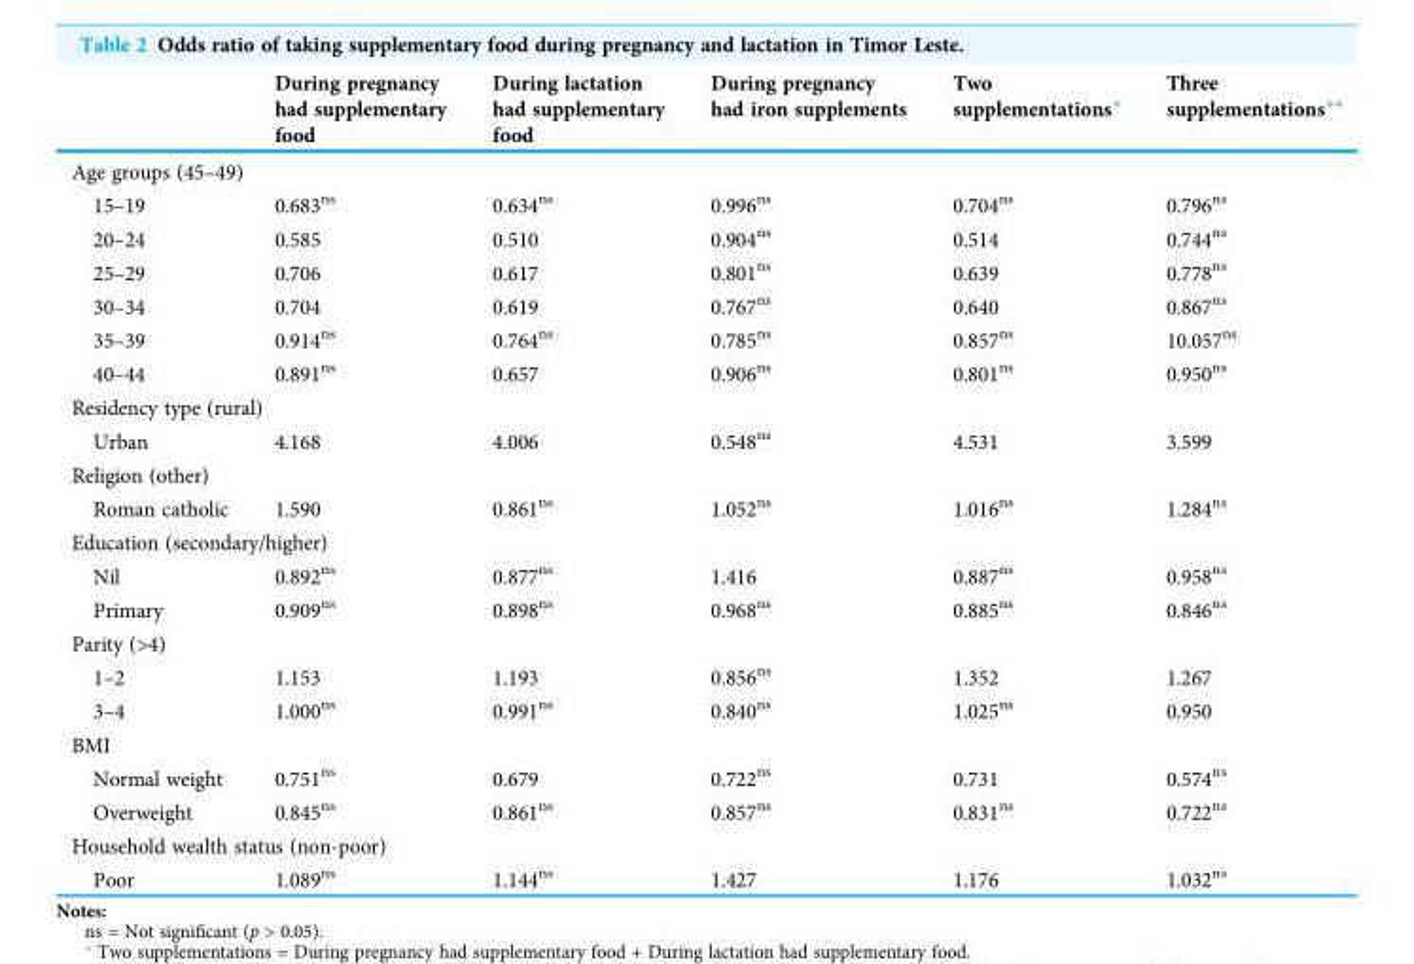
<table><thead><tr><td></td><td>During pregnancy had supplementary food</td><td>During lactation had supplementary food</td><td>During pregnancy had iron supplements</td><td>Two supplementations*</td><td>Three supplementations**</td></tr></thead><tbody><tr><td colspan="6">Age groups (45–49)</td></tr><tr><td>15–19</td><td>0.683<sup>ns</sup></td><td>0.634<sup>ns</sup></td><td>0.996<sup>ns</sup></td><td>0.704<sup>ns</sup></td><td>0.796<sup>ns</sup></td></tr><tr><td>20–24</td><td>0.585</td><td>0.510</td><td>0.904<sup>ns</sup></td><td>0.514</td><td>0.744<sup>ns</sup></td></tr><tr><td>25–29</td><td>0.706</td><td>0.617</td><td>0.801<sup>ns</sup></td><td>0.639</td><td>0.778<sup>ns</sup></td></tr><tr><td>30–34</td><td>0.704</td><td>0.619</td><td>0.767<sup>ns</sup></td><td>0.640</td><td>0.867<sup>ns</sup></td></tr><tr><td>35–39</td><td>0.914<sup>ns</sup></td><td>0.764<sup>ns</sup></td><td>0.785<sup>ns</sup></td><td>0.857<sup>ns</sup></td><td>10.057<sup>ns</sup></td></tr><tr><td>40–44</td><td>0.891<sup>ns</sup></td><td>0.657</td><td>0.906<sup>ns</sup></td><td>0.801<sup>ns</sup></td><td>0.950<sup>ns</sup></td></tr><tr><td colspan="6">Residency type (rural)</td></tr><tr><td>Urban</td><td>4.168</td><td>4.006</td><td>0.548<sup>ns</sup></td><td>4.531</td><td>3.599</td></tr><tr><td colspan="6">Religion (other)</td></tr><tr><td>Roman catholic</td><td>1.590</td><td>0.861<sup>ns</sup></td><td>1.052<sup>ns</sup></td><td>1.016<sup>ns</sup></td><td>1.284<sup>ns</sup></td></tr><tr><td colspan="6">Education (secondary/higher)</td></tr><tr><td>Nil</td><td>0.892<sup>ns</sup></td><td>0.877<sup>ns</sup></td><td>1.416</td><td>0.887<sup>ns</sup></td><td>0.958<sup>ns</sup></td></tr><tr><td>Primary</td><td>0.909<sup>ns</sup></td><td>0.898<sup>ns</sup></td><td>0.968<sup>ns</sup></td><td>0.885<sup>ns</sup></td><td>0.846<sup>ns</sup></td></tr><tr><td colspan="6">Parity (&gt;4)</td></tr><tr><td>1–2</td><td>1.153</td><td>1.193</td><td>0.856<sup>ns</sup></td><td>1.352</td><td>1.267</td></tr><tr><td>3–4</td><td>1.000<sup>ns</sup></td><td>0.991<sup>ns</sup></td><td>0.840<sup>ns</sup></td><td>1.025<sup>ns</sup></td><td>0.950</td></tr><tr><td colspan="6">BMI</td></tr><tr><td>Normal weight</td><td>0.751<sup>ns</sup></td><td>0.679</td><td>0.722<sup>ns</sup></td><td>0.731</td><td>0.574<sup>ns</sup></td></tr><tr><td>Overweight</td><td>0.845<sup>ns</sup></td><td>0.861<sup>ns</sup></td><td>0.857<sup>ns</sup></td><td>0.831<sup>ns</sup></td><td>0.722<sup>ns</sup></td></tr><tr><td colspan="6">Household wealth status (non-poor)</td></tr><tr><td>Poor</td><td>1.089<sup>ns</sup></td><td>1.144<sup>ns</sup></td><td>1.427</td><td>1.176</td><td>1.032<sup>ns</sup></td></tr></tbody></table>